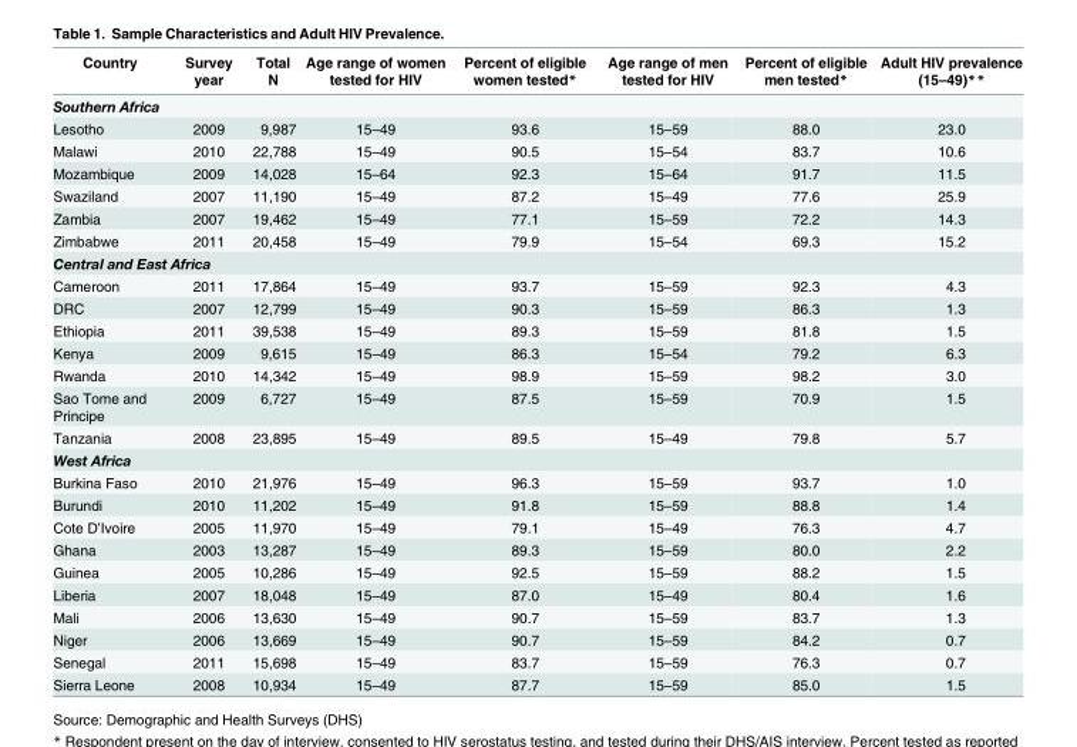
<table><thead><tr><td>Country</td><td>Survey year</td><td>Total N</td><td>Age range of women tested for HIV</td><td>Percent of eligible women tested*</td><td>Age range of men tested for HIV</td><td>Percent of eligible men tested*</td><td>Adult HIV prevalence (15–49)**</td></tr></thead><tbody><tr><td colspan="8">Southern Africa</td></tr><tr><td>Lesotho</td><td>2009</td><td>9,987</td><td>15–49</td><td>93.6</td><td>15–59</td><td>88.0</td><td>23.0</td></tr><tr><td>Malawi</td><td>2010</td><td>22,788</td><td>15–49</td><td>90.5</td><td>15–54</td><td>83.7</td><td>10.6</td></tr><tr><td>Mozambique</td><td>2009</td><td>14,028</td><td>15–64</td><td>92.3</td><td>15–64</td><td>91.7</td><td>11.5</td></tr><tr><td>Swaziland</td><td>2007</td><td>11,190</td><td>15–49</td><td>87.2</td><td>15–49</td><td>77.6</td><td>25.9</td></tr><tr><td>Zambia</td><td>2007</td><td>19,462</td><td>15–49</td><td>77.1</td><td>15–59</td><td>72.2</td><td>14.3</td></tr><tr><td>Zimbabwe</td><td>2011</td><td>20,458</td><td>15–49</td><td>79.9</td><td>15–54</td><td>69.3</td><td>15.2</td></tr><tr><td colspan="8">Central and East Africa</td></tr><tr><td>Cameroon</td><td>2011</td><td>17,864</td><td>15–49</td><td>93.7</td><td>15–59</td><td>92.3</td><td>4.3</td></tr><tr><td>DRC</td><td>2007</td><td>12,799</td><td>15–49</td><td>90.3</td><td>15–59</td><td>86.3</td><td>1.3</td></tr><tr><td>Ethiopia</td><td>2011</td><td>39,538</td><td>15–49</td><td>89.3</td><td>15–59</td><td>81.8</td><td>1.5</td></tr><tr><td>Kenya</td><td>2009</td><td>9,615</td><td>15–49</td><td>86.3</td><td>15–54</td><td>79.2</td><td>6.3</td></tr><tr><td>Rwanda</td><td>2010</td><td>14,342</td><td>15–49</td><td>98.9</td><td>15–59</td><td>98.2</td><td>3.0</td></tr><tr><td>Sao Tome and Principe</td><td>2009</td><td>6,727</td><td>15–49</td><td>87.5</td><td>15–59</td><td>70.9</td><td>1.5</td></tr><tr><td>Tanzania</td><td>2008</td><td>23,895</td><td>15–49</td><td>89.5</td><td>15–49</td><td>79.8</td><td>5.7</td></tr><tr><td colspan="8">West Africa</td></tr><tr><td>Burkina Faso</td><td>2010</td><td>21,976</td><td>15–49</td><td>96.3</td><td>15–59</td><td>93.7</td><td>1.0</td></tr><tr><td>Burundi</td><td>2010</td><td>11,202</td><td>15–49</td><td>91.8</td><td>15–59</td><td>88.8</td><td>1.4</td></tr><tr><td>Cote D’Ivoire</td><td>2005</td><td>11,970</td><td>15–49</td><td>79.1</td><td>15–49</td><td>76.3</td><td>4.7</td></tr><tr><td>Ghana</td><td>2003</td><td>13,287</td><td>15–49</td><td>89.3</td><td>15–59</td><td>80.0</td><td>2.2</td></tr><tr><td>Guinea</td><td>2005</td><td>10,286</td><td>15–49</td><td>92.5</td><td>15–59</td><td>88.2</td><td>1.5</td></tr><tr><td>Liberia</td><td>2007</td><td>18,048</td><td>15–49</td><td>87.0</td><td>15–49</td><td>80.4</td><td>1.6</td></tr><tr><td>Mali</td><td>2006</td><td>13,630</td><td>15–49</td><td>90.7</td><td>15–59</td><td>83.7</td><td>1.3</td></tr><tr><td>Niger</td><td>2006</td><td>13,669</td><td>15–49</td><td>90.7</td><td>15–59</td><td>84.2</td><td>0.7</td></tr><tr><td>Senegal</td><td>2011</td><td>15,698</td><td>15–49</td><td>83.7</td><td>15–59</td><td>76.3</td><td>0.7</td></tr><tr><td>Sierra Leone</td><td>2008</td><td>10,934</td><td>15–49</td><td>87.7</td><td>15–59</td><td>85.0</td><td>1.5</td></tr></tbody></table>